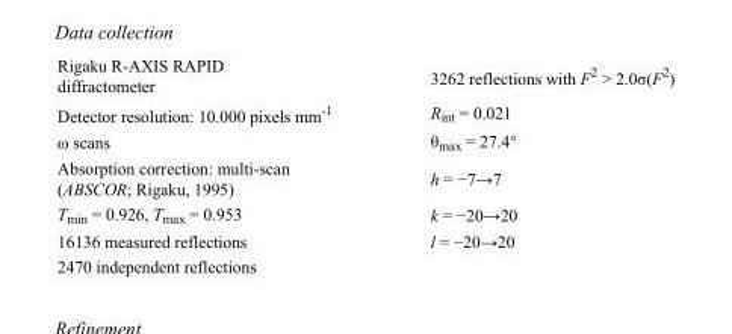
<table><tbody><tr><td>Rigaku R-AXIS RAPID diffractometer</td><td>3262 reflections with F<sup>2</sup> &gt; 2.0σ(F<sup>2</sup>)</td></tr><tr><td>Detector resolution: 10.000 pixels mm<sup>-1</sup></td><td>R<sub>int</sub> = 0.021</td></tr><tr><td>ω scans</td><td>θ<sub>max</sub> = 27.4°</td></tr><tr><td>Absorption correction: multi-scan (ABSCOR; Rigaku, 1995)</td><td>h = −7→7</td></tr><tr><td>T<sub>min</sub> = 0.926, T<sub>max</sub> = 0.953</td><td>k = −20→20</td></tr><tr><td>16136 measured reflections</td><td>l = −20→20</td></tr><tr><td>2470 independent reflections</td><td></td></tr></tbody></table>